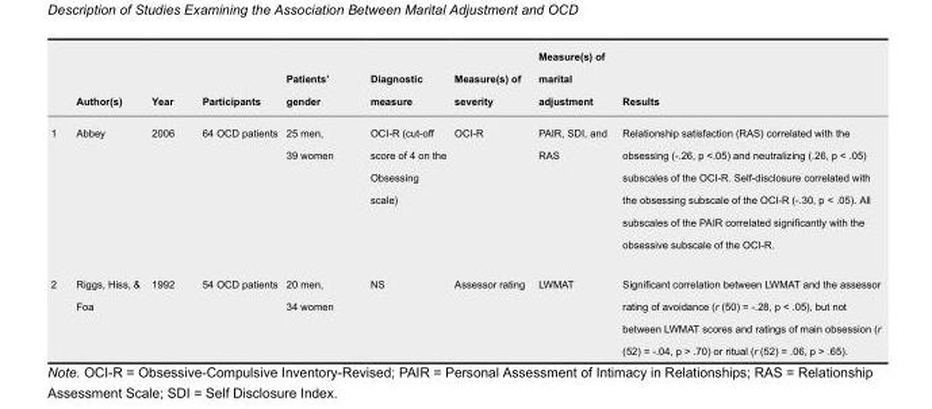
<table><thead><tr><td></td><td>Author(s)</td><td>Year</td><td>Participants</td><td>Patients’ gender</td><td>Diagnostic measure</td><td>Measure(s) of severity</td><td>Measure(s) of marital adjustment</td><td>Results</td></tr></thead><tbody><tr><td>1</td><td>Abbey</td><td>2006</td><td>64 OCD patients</td><td>25 men, 39 women</td><td>OCI-R (cut-off score of 4 on the Obsessing scale)</td><td>OCI-R</td><td>PAIR, SDI, and RAS</td><td>Relationship satisfaction (RAS) correlated with the obsessing (-.26, p &lt;.05) and neutralizing (.26, p &lt; .05) subscales of the OCI-R. Self-disclosure correlated with the obsessing subscale of the OCI-R (-.30, p &lt; .05). All subscales of the PAIR correlated significantly with the obsessive subscale of the OCI-R.</td></tr><tr><td>2</td><td>Riggs, Hiss, &amp; Foa</td><td>1992</td><td>54 OCD patients</td><td>20 men, 34 women</td><td>NS</td><td>Assessor rating</td><td>LWMAT</td><td>Significant correlation between LWMAT and the assessor rating of avoidance (r (50) = -.28, p &lt; .05), but not between LWMAT scores and ratings of main obsession (r (52) = -.04, p &gt; .70) or ritual (r (52) = .06, p &gt; .65).</td></tr></tbody></table>